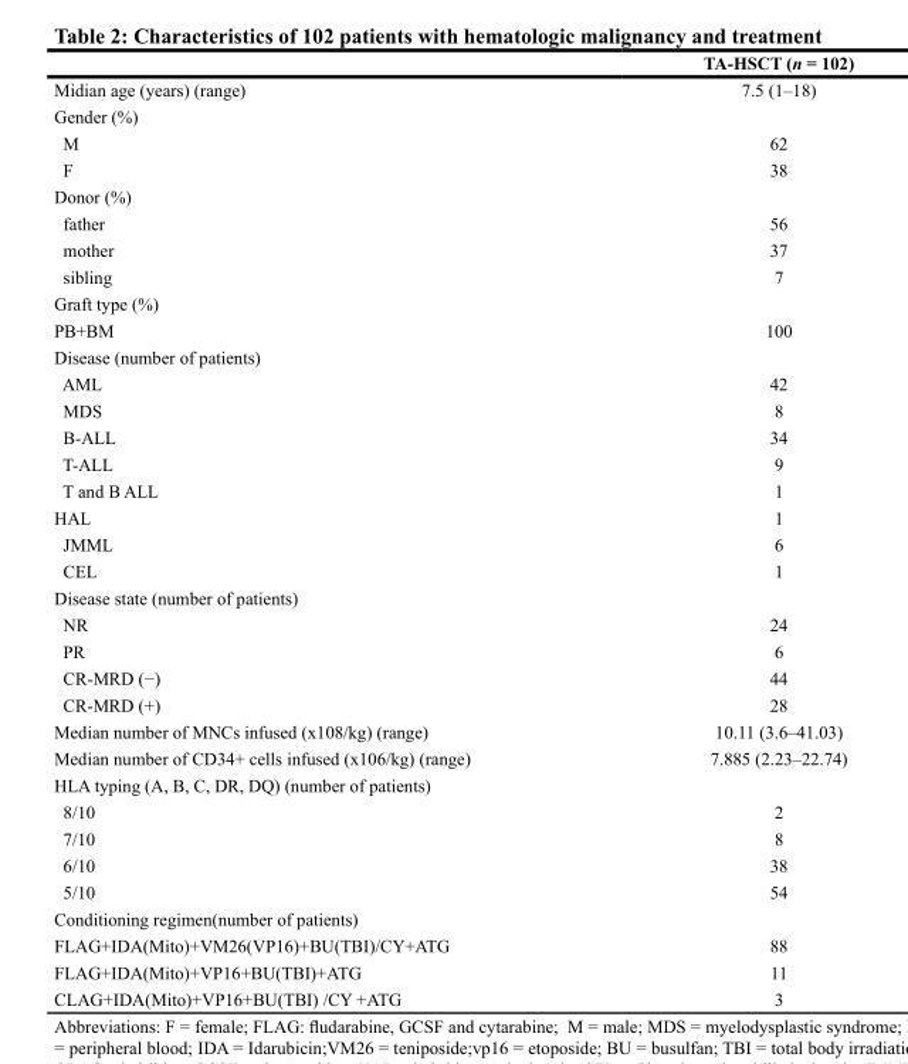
<table><thead><tr><td></td><td>TA-HSCT (n = 102)</td></tr></thead><tbody><tr><td>Midian age (years) (range)</td><td>7.5 (1–18)</td></tr><tr><td colspan="2">Gender (%)</td></tr><tr><td>M</td><td>62</td></tr><tr><td>F</td><td>38</td></tr><tr><td colspan="2">Donor (%)</td></tr><tr><td>father</td><td>56</td></tr><tr><td>mother</td><td>37</td></tr><tr><td>sibling</td><td>7</td></tr><tr><td colspan="2">Graft type (%)</td></tr><tr><td>PB+BM</td><td>100</td></tr><tr><td colspan="2">Disease (number of patients)</td></tr><tr><td>AML</td><td>42</td></tr><tr><td>MDS</td><td>8</td></tr><tr><td>B-ALL</td><td>34</td></tr><tr><td>T-ALL</td><td>9</td></tr><tr><td>T and B ALL</td><td>1</td></tr><tr><td>HAL</td><td>1</td></tr><tr><td>JMML</td><td>6</td></tr><tr><td>CEL</td><td>1</td></tr><tr><td colspan="2">Disease state (number of patients)</td></tr><tr><td>NR</td><td>24</td></tr><tr><td>PR</td><td>6</td></tr><tr><td>CR-MRD (−)</td><td>44</td></tr><tr><td>CR-MRD (+)</td><td>28</td></tr><tr><td>Median number of MNCs infused (x108/kg) (range)</td><td>10.11 (3.6–41.03)</td></tr><tr><td>Median number of CD34+ cells infused (x106/kg) (range)</td><td>7.885 (2.23–22.74)</td></tr><tr><td colspan="2">HLA typing (A, B, C, DR, DQ) (number of patients)</td></tr><tr><td>8/10</td><td>2</td></tr><tr><td>7/10</td><td>8</td></tr><tr><td>6/10</td><td>38</td></tr><tr><td>5/10</td><td>54</td></tr><tr><td colspan="2">Conditioning regimen(number of patients)</td></tr><tr><td>FLAG+IDA(Mito)+VM26(VP16)+BU(TBI)/CY+ATG</td><td>88</td></tr><tr><td>FLAG+IDA(Mito)+VP16+BU(TBI)+ATG</td><td>11</td></tr><tr><td>CLAG+IDA(Mito)+VP16+BU(TBI) /CY +ATG</td><td>3</td></tr></tbody></table>